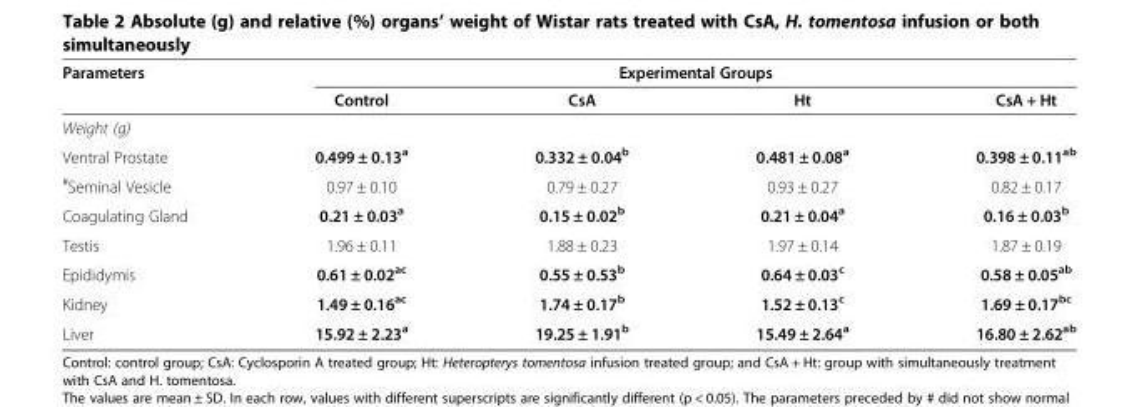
<table><thead><tr><td rowspan="2">Parameters</td><td colspan="4">Experimental Groups</td></tr><tr><td>Control</td><td>CsA</td><td>Ht</td><td>CsA + Ht</td></tr></thead><tbody><tr><td colspan="5">Weight (g)</td></tr><tr><td>Ventral Prostate</td><td>0.499 ± 0.13<sup>a</sup></td><td>0.332 ± 0.04<sup>b</sup></td><td>0.481 ± 0.08<sup>a</sup></td><td>0.398 ± 0.11<sup>ab</sup></td></tr><tr><td><sup>#</sup>Seminal Vesicle</td><td>0.97 ± 0.10</td><td>0.79 ± 0.27</td><td>0.93 ± 0.27</td><td>0.82 ± 0.17</td></tr><tr><td>Coagulating Gland</td><td>0.21 ± 0.03<sup>a</sup></td><td>0.15 ± 0.02<sup>b</sup></td><td>0.21 ± 0.04<sup>a</sup></td><td>0.16 ± 0.03<sup>b</sup></td></tr><tr><td>Testis</td><td>1.96 ± 0.11</td><td>1.88 ± 0.23</td><td>1.97 ± 0.14</td><td>1.87 ± 0.19</td></tr><tr><td>Epididymis</td><td>0.61 ± 0.02<sup>ac</sup></td><td>0.55 ± 0.53<sup>b</sup></td><td>0.64 ± 0.03<sup>c</sup></td><td>0.58 ± 0.05<sup>ab</sup></td></tr><tr><td>Kidney</td><td>1.49 ± 0.16<sup>ac</sup></td><td>1.74 ± 0.17<sup>b</sup></td><td>1.52 ± 0.13<sup>c</sup></td><td>1.69 ± 0.17<sup>bc</sup></td></tr><tr><td>Liver</td><td>15.92 ± 2.23<sup>a</sup></td><td>19.25 ± 1.91<sup>b</sup></td><td>15.49 ± 2.64<sup>a</sup></td><td>16.80 ± 2.62<sup>ab</sup></td></tr></tbody></table>